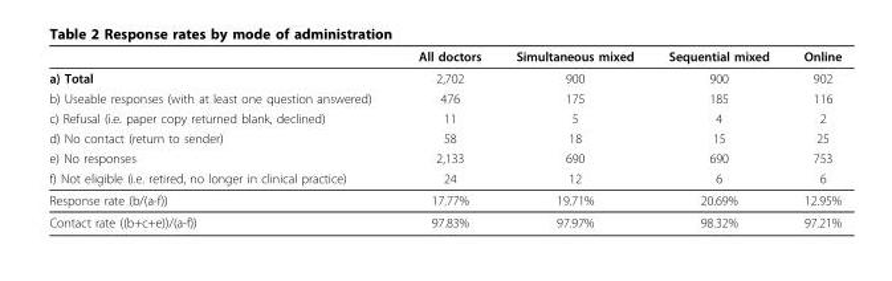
<table><thead><tr><td></td><td>All doctors</td><td>Simultaneous mixed</td><td>Sequential mixed</td><td>Online</td></tr></thead><tbody><tr><td>a) Total</td><td>2,702</td><td>900</td><td>900</td><td>902</td></tr><tr><td>b) Useable responses (with at least one question answered)</td><td>476</td><td>175</td><td>185</td><td>116</td></tr><tr><td>c) Refusal (i.e. paper copy returned blank, declined)</td><td>11</td><td>5</td><td>4</td><td>2</td></tr><tr><td>d) No contact (return to sender)</td><td>58</td><td>18</td><td>15</td><td>25</td></tr><tr><td>e) No responses</td><td>2,133</td><td>690</td><td>690</td><td>753</td></tr><tr><td>f) Not eligible (i.e. retired, no longer in clinical practice)</td><td>24</td><td>12</td><td>6</td><td>6</td></tr><tr><td>Response rate (b/(a-f))</td><td>17.77%</td><td>19.71%</td><td>20.69%</td><td>12.95%</td></tr><tr><td>Contact rate ((b+c+e))/(a-f))</td><td>97.83%</td><td>97.97%</td><td>98.32%</td><td>97.21%</td></tr></tbody></table>